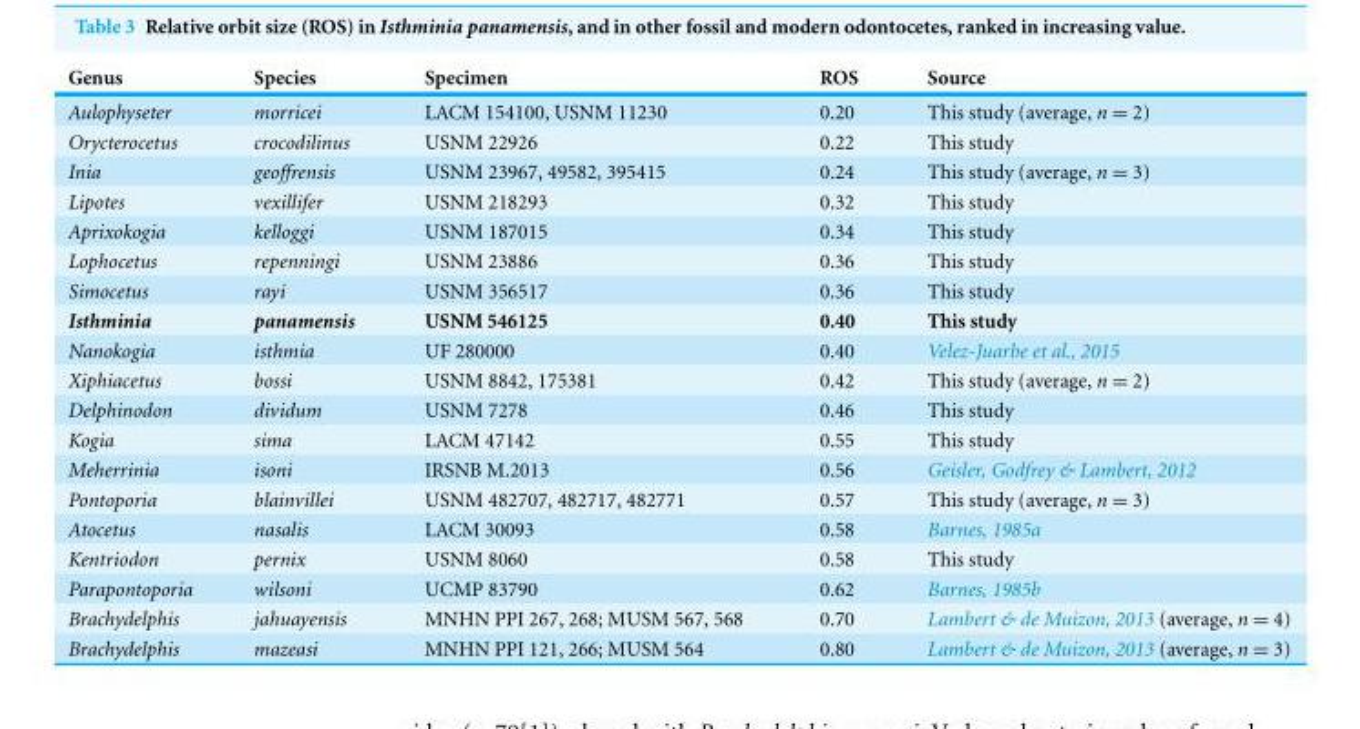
<table><thead><tr><td>Genus</td><td>Species</td><td>Specimen</td><td>ROS</td><td>Source</td></tr></thead><tbody><tr><td>Aulophyseter</td><td>morricei</td><td>LACM 154100, USNM 11230</td><td>0.20</td><td>This study (average, n = 2)</td></tr><tr><td>Orycterocetus</td><td>crocodilinus</td><td>USNM 22926</td><td>0.22</td><td>This study</td></tr><tr><td>Inia</td><td>geoffrensis</td><td>USNM 23967, 49582, 395415</td><td>0.24</td><td>This study (average, n = 3)</td></tr><tr><td>Lipotes</td><td>vexillifer</td><td>USNM 218293</td><td>0.32</td><td>This study</td></tr><tr><td>Aprixokogia</td><td>kelloggi</td><td>USNM 187015</td><td>0.34</td><td>This study</td></tr><tr><td>Lophocetus</td><td>repenningi</td><td>USNM 23886</td><td>0.36</td><td>This study</td></tr><tr><td>Simocetus</td><td>rayi</td><td>USNM 356517</td><td>0.36</td><td>This study</td></tr><tr><td>Isthminia</td><td>panamensis</td><td>USNM 546125</td><td>0.40</td><td>This study</td></tr><tr><td>Nanokogia</td><td>isthmia</td><td>UF 280000</td><td>0.40</td><td>Velez-Juarbe et al., 2015</td></tr><tr><td>Xiphiacetus</td><td>bossi</td><td>USNM 8842, 175381</td><td>0.42</td><td>This study (average, n = 2)</td></tr><tr><td>Delphinodon</td><td>dividum</td><td>USNM 7278</td><td>0.46</td><td>This study</td></tr><tr><td>Kogia</td><td>sima</td><td>LACM 47142</td><td>0.55</td><td>This study</td></tr><tr><td>Meherrinia</td><td>isoni</td><td>IRSNB M.2013</td><td>0.56</td><td>Geisler, Godfrey &amp; Lambert, 2012</td></tr><tr><td>Pontoporia</td><td>blainvillei</td><td>USNM 482707, 482717, 482771</td><td>0.57</td><td>This study (average, n = 3)</td></tr><tr><td>Atocetus</td><td>nasalis</td><td>LACM 30093</td><td>0.58</td><td>Barnes, 1985a</td></tr><tr><td>Kentriodon</td><td>pernix</td><td>USNM 8060</td><td>0.58</td><td>This study</td></tr><tr><td>Parapontoporia</td><td>wilsoni</td><td>UCMP 83790</td><td>0.62</td><td>Barnes, 1985b</td></tr><tr><td>Brachydelphis</td><td>jahuayensis</td><td>MNHN PPI 267, 268; MUSM 567, 568</td><td>0.70</td><td>Lambert &amp; de Muizon, 2013 (average, n = 4)</td></tr><tr><td>Brachydelphis</td><td>mazeasi</td><td>MNHN PPI 121, 266; MUSM 564</td><td>0.80</td><td>Lambert &amp; de Muizon, 2013 (average, n = 3)</td></tr></tbody></table>